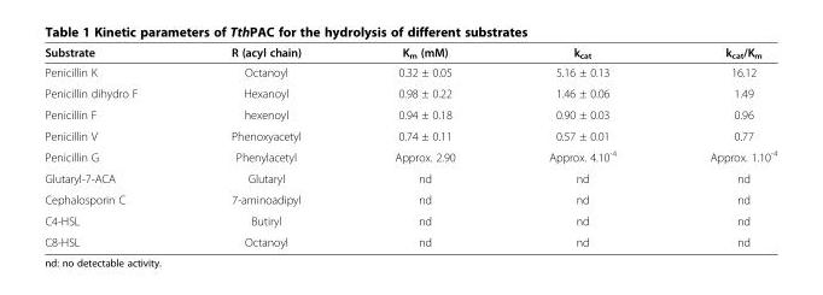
<table><thead><tr><td>Substrate</td><td>R (acyl chain)</td><td>K<sub>m</sub> (mM)</td><td>k<sub>cat</sub></td><td>k<sub>cat</sub>/K<sub>m</sub></td></tr></thead><tbody><tr><td>Penicillin K</td><td>Octanoyl</td><td>0.32 ± 0.05</td><td>5.16 ± 0.13</td><td>16.12</td></tr><tr><td>Penicillin dihydro F</td><td>Hexanoyl</td><td>0.98 ± 0.22</td><td>1.46 ± 0.06</td><td>1.49</td></tr><tr><td>Penicillin F</td><td>hexenoyl</td><td>0.94 ± 0.18</td><td>0.90 ± 0.03</td><td>0.96</td></tr><tr><td>Penicillin V</td><td>Phenoxyacetyl</td><td>0.74 ± 0.11</td><td>0.57 ± 0.01</td><td>0.77</td></tr><tr><td>Penicillin G</td><td>Phenylacetyl</td><td>Approx. 2.90</td><td>Approx. 4.10<sup>-4</sup></td><td>Approx. 1.10<sup>-4</sup></td></tr><tr><td>Glutaryl-7-ACA</td><td>Glutaryl</td><td>nd</td><td>nd</td><td>nd</td></tr><tr><td>Cephalosporin C</td><td>7-aminoadipyl</td><td>nd</td><td>nd</td><td>nd</td></tr><tr><td>C4-HSL</td><td>Butiryl</td><td>nd</td><td>nd</td><td>nd</td></tr><tr><td>C8-HSL</td><td>Octanoyl</td><td>nd</td><td>nd</td><td>nd</td></tr></tbody></table>